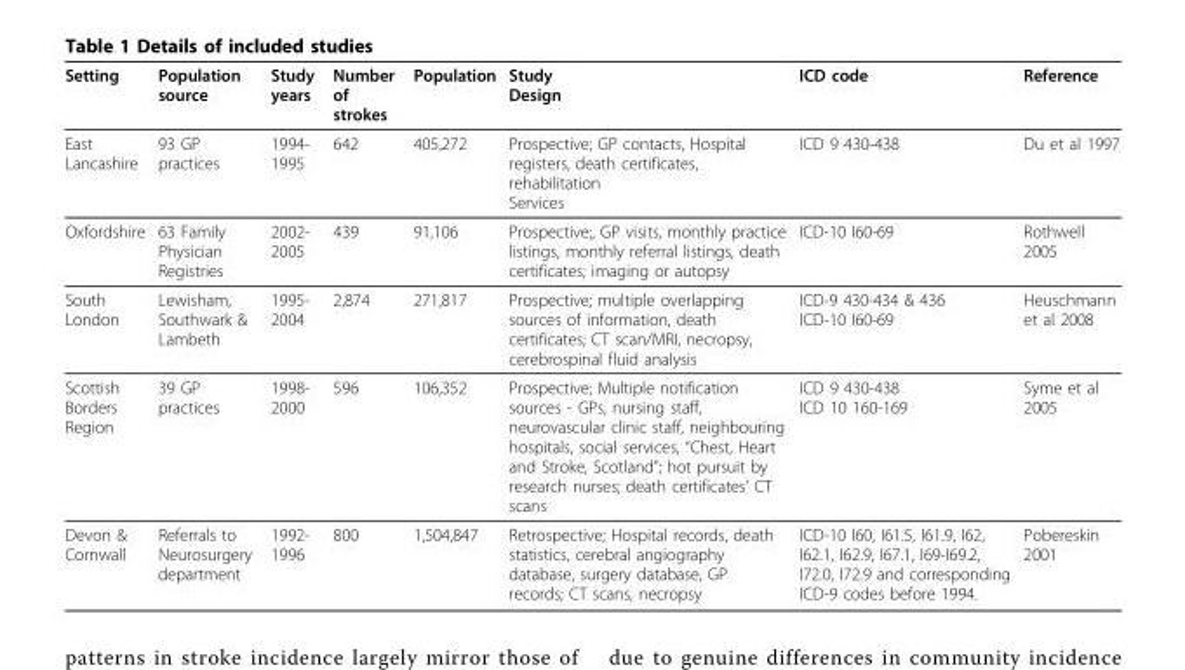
<table><thead><tr><td>Setting</td><td>Population source</td><td>Study years</td><td>Number of strokes</td><td>Population</td><td>Study Design</td><td>ICD code</td><td>Reference</td></tr></thead><tbody><tr><td>East Lancashire</td><td>93 GP practices</td><td>1994- 1995</td><td>642</td><td>405,272</td><td>Prospective; GP contacts, Hospital registers, death certificates, rehabilitation Services</td><td>ICD 9 430-438</td><td>Du et al 1997</td></tr><tr><td>Oxfordshire</td><td>63 Family Physician Registries</td><td>2002- 2005</td><td>439</td><td>91,106</td><td>Prospective;, GP visits, monthly practice listings, monthly referral listings, death certificates; imaging or autopsy</td><td>ICD-10 I60-69</td><td>Rothwell 2005</td></tr><tr><td>South London</td><td>Lewisham, Southwark &amp; Lambeth</td><td>1995- 2004</td><td>2,874</td><td>271,817</td><td>Prospective; multiple overlapping sources of information, death certificates; CT scan/MRI, necropsy, cerebrospinal fluid analysis</td><td>ICD-9 430-434 &amp; 436 ICD-10 I60-69</td><td>Heuschmann et al 2008</td></tr><tr><td>Scottish Borders Region</td><td>39 GP practices</td><td>1998- 2000</td><td>596</td><td>106,352</td><td>Prospective; Multiple notification sources - GPs, nursing staff, neurovascular clinic staff, neighbouring hospitals, social services, “Chest, Heart and Stroke, Scotland&quot;; hot pursuit by research nurses; death certificates’ CT scans</td><td>ICD 9 430-438 ICD 10 160-169</td><td>Syme et al 2005</td></tr><tr><td>Devon &amp; Cornwall</td><td>Referrals to Neurosurgery department</td><td>1992- 1996</td><td>800</td><td>1,504,847</td><td>Retrospective; Hospital records, death statistics, cerebral angiography database, surgery database, GP records; CT scans, necropsy</td><td>ICD-10 I60, I61.5, I61.9, I62, I62.1, I62.9, I67.1, I69-I69.2, I72.0, I72.9 and corresponding ICD-9 codes before 1994.</td><td>Pobereskin 2001</td></tr></tbody></table>